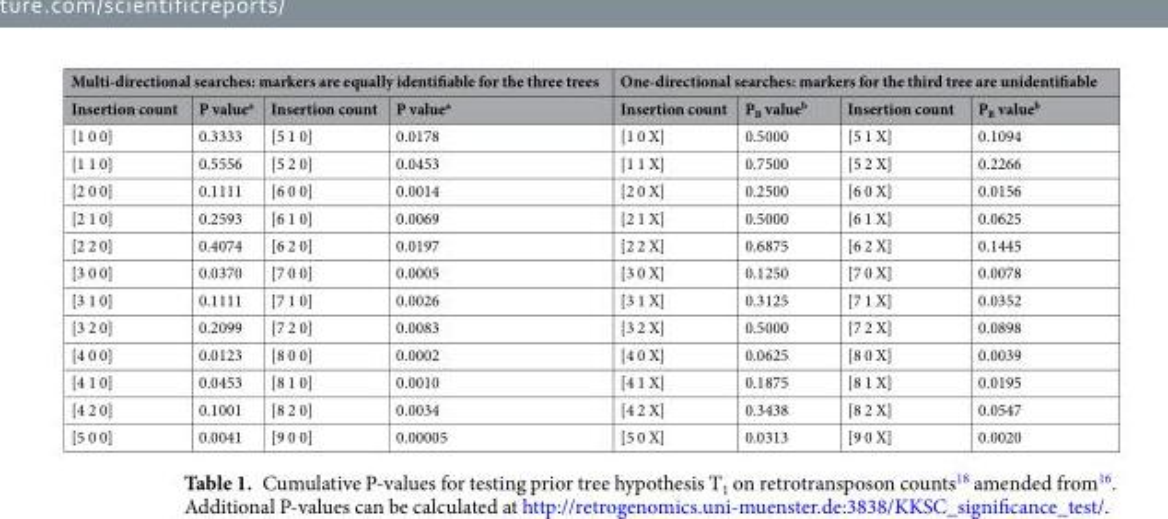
<table><thead><tr><td colspan="4">Multi-directional searches: markers are equally identifiable for the three trees</td><td colspan="4">One-directional searches: markers for the third tree are unidentifiable</td></tr><tr><td>Insertion count</td><td>P value<sup>a</sup></td><td>Insertion count</td><td>P value<sup>a</sup></td><td>Insertion count</td><td>P<sub>B</sub> value<sup>b</sup></td><td>Insertion count</td><td>P<sub>B</sub> value<sup>b</sup></td></tr></thead><tbody><tr><td>[1 0 0]</td><td>0.3333</td><td>[5 1 0]</td><td>0.0178</td><td>[1 0 X]</td><td>0.5000</td><td>[5 1 X]</td><td>0.1094</td></tr><tr><td>[1 1 0]</td><td>0.5556</td><td>[5 2 0]</td><td>0.0453</td><td>[1 1 X]</td><td>0.7500</td><td>[5 2 X]</td><td>0.2266</td></tr><tr><td>[2 0 0]</td><td>0.1111</td><td>[6 0 0]</td><td>0.0014</td><td>[2 0 X]</td><td>0.2500</td><td>[6 0 X]</td><td>0.0156</td></tr><tr><td>[2 1 0]</td><td>0.2593</td><td>[6 1 0]</td><td>0.0069</td><td>[2 1 X]</td><td>0.5000</td><td>[6 1 X]</td><td>0.0625</td></tr><tr><td>[2 2 0]</td><td>0.4074</td><td>[6 2 0]</td><td>0.0197</td><td>[2 2 X]</td><td>0.6875</td><td>[6 2 X]</td><td>0.1445</td></tr><tr><td>[3 0 0]</td><td>0.0370</td><td>[7 0 0]</td><td>0.0005</td><td>[3 0 X]</td><td>0.1250</td><td>[7 0 X]</td><td>0.0078</td></tr><tr><td>[3 1 0]</td><td>0.1111</td><td>[7 1 0]</td><td>0.0026</td><td>[3 1 X]</td><td>0.3125</td><td>[7 1 X]</td><td>0.0352</td></tr><tr><td>[3 2 0]</td><td>0.2099</td><td>[7 2 0]</td><td>0.0083</td><td>[3 2 X]</td><td>0.5000</td><td>[7 2 X]</td><td>0.0898</td></tr><tr><td>[4 0 0]</td><td>0.0123</td><td>[8 0 0]</td><td>0.0002</td><td>[4 0 X]</td><td>0.0625</td><td>[8 0 X]</td><td>0.0039</td></tr><tr><td>[4 1 0]</td><td>0.0453</td><td>[8 1 0]</td><td>0.0010</td><td>[4 1 X]</td><td>0.1875</td><td>[8 1 X]</td><td>0.0195</td></tr><tr><td>[4 2 0]</td><td>0.1001</td><td>[8 2 0]</td><td>0.0034</td><td>[4 2 X]</td><td>0.3438</td><td>[8 2 X]</td><td>0.0547</td></tr><tr><td>[5 0 0]</td><td>0.0041</td><td>[9 0 0]</td><td>0.00005</td><td>[5 0 X]</td><td>0.0313</td><td>[9 0 X]</td><td>0.0020</td></tr></tbody></table>